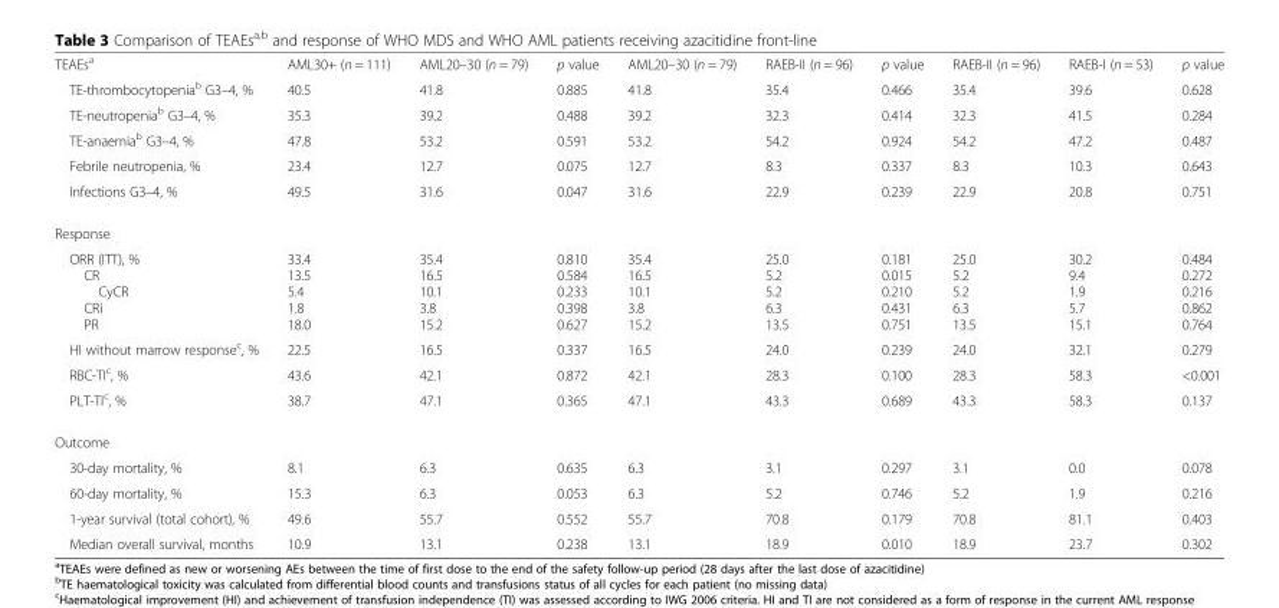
<table><tbody><tr><td>TEAEs<sup>a</sup></td><td>AML30+ (n = 111)</td><td>AML20–30 (n = 79)</td><td>p value</td><td>AML20–30 (n = 79)</td><td>RAEB-II (n = 96)</td><td>p value</td><td>RAEB-II (n = 96)</td><td>RAEB-I (n = 53)</td><td>p value</td></tr><tr><td>TE-thrombocytopenia<sup>b</sup> G3–4, %</td><td>40.5</td><td>41.8</td><td>0.885</td><td>41.8</td><td>35.4</td><td>0.466</td><td>35.4</td><td>39.6</td><td>0.628</td></tr><tr><td>TE-neutropenia<sup>b</sup> G3–4, %</td><td>35.3</td><td>39.2</td><td>0.488</td><td>39.2</td><td>32.3</td><td>0.414</td><td>32.3</td><td>41.5</td><td>0.284</td></tr><tr><td>TE-anaemia<sup>b</sup> G3–4, %</td><td>47.8</td><td>53.2</td><td>0.591</td><td>53.2</td><td>54.2</td><td>0.924</td><td>54.2</td><td>47.2</td><td>0.487</td></tr><tr><td>Febrile neutropenia, %</td><td>23.4</td><td>12.7</td><td>0.075</td><td>12.7</td><td>8.3</td><td>0.337</td><td>8.3</td><td>10.3</td><td>0.643</td></tr><tr><td>Infections G3–4, %</td><td>49.5</td><td>31.6</td><td>0.047</td><td>31.6</td><td>22.9</td><td>0.239</td><td>22.9</td><td>20.8</td><td>0.751</td></tr><tr><td colspan="10">Response</td></tr><tr><td>ORR (ITT), % CR CyCR CRi PR</td><td>33.4 13.5 5.4 1.8 18.0</td><td>35.4 16.5 10.1 3.8 15.2</td><td>0.810 0.584 0.233 0.398 0.627</td><td>35.4 16.5 10.1 3.8 15.2</td><td>25.0 5.2 5.2 6.3 13.5</td><td>0.181 0.015 0.210 0.431 0.751</td><td>25.0 5.2 5.2 6.3 13.5</td><td>30.2 9.4 1.9 5.7 15.1</td><td>0.484 0.272 0.216 0.862 0.764</td></tr><tr><td>HI without marrow response<sup>c</sup>, %</td><td>22.5</td><td>16.5</td><td>0.337</td><td>16.5</td><td>24.0</td><td>0.239</td><td>24.0</td><td>32.1</td><td>0.279</td></tr><tr><td>RBC-TI<sup>c</sup>, %</td><td>43.6</td><td>42.1</td><td>0.872</td><td>42.1</td><td>28.3</td><td>0.100</td><td>28.3</td><td>58.3</td><td>&lt;0.001</td></tr><tr><td>PLT-TI<sup>c</sup>, %</td><td>38.7</td><td>47.1</td><td>0.365</td><td>47.1</td><td>43.3</td><td>0.689</td><td>43.3</td><td>58.3</td><td>0.137</td></tr><tr><td colspan="10">Outcome</td></tr><tr><td>30-day mortality, %</td><td>8.1</td><td>6.3</td><td>0.635</td><td>6.3</td><td>3.1</td><td>0.297</td><td>3.1</td><td>0.0</td><td>0.078</td></tr><tr><td>60-day mortality, %</td><td>15.3</td><td>6.3</td><td>0.053</td><td>6.3</td><td>5.2</td><td>0.746</td><td>5.2</td><td>1.9</td><td>0.216</td></tr><tr><td>1-year survival (total cohort), %</td><td>49.6</td><td>55.7</td><td>0.552</td><td>55.7</td><td>70.8</td><td>0.179</td><td>70.8</td><td>81.1</td><td>0.403</td></tr><tr><td>Median overall survival, months</td><td>10.9</td><td>13.1</td><td>0.238</td><td>13.1</td><td>18.9</td><td>0.010</td><td>18.9</td><td>23.7</td><td>0.302</td></tr></tbody></table>